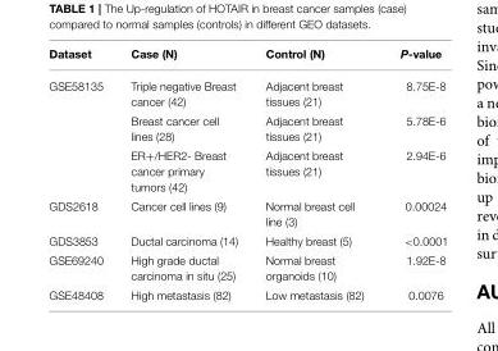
<table><thead><tr><td>Dataset</td><td>Case (N)</td><td>Control (N)</td><td>P-value</td></tr></thead><tbody><tr><td rowspan="3">GSE58135</td><td>Triple negative Breast cancer (42)</td><td>Adjacent breast tissues (21)</td><td>8.75E-8</td></tr><tr><td>Breast cancer cell lines (28)</td><td>Adjacent breast tissues (21)</td><td>5.78E-6</td></tr><tr><td>ER+/HER2- Breast cancer primary tumors (42)</td><td>Adjacent breast tissues (21)</td><td>2.94E-6</td></tr><tr><td>GDS2618</td><td>Cancer cell lines (9)</td><td>Normal breast cell line (3)</td><td>0.00024</td></tr><tr><td>GDS3853</td><td>Ductal carcinoma (14)</td><td>Healthy breast (5)</td><td>&lt;0.0001</td></tr><tr><td>GSE69240</td><td>High grade ductal carcinoma in situ (25)</td><td>Normal breast organoids (10)</td><td>1.92E-8</td></tr><tr><td>GSE48408</td><td>High metastasis (82)</td><td>Low metastasis (82)</td><td>0.0076</td></tr></tbody></table>